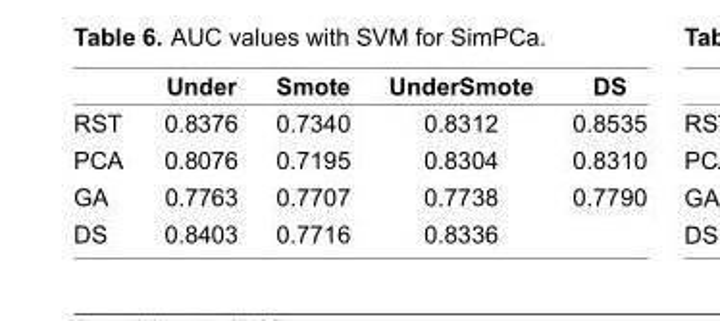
<table><thead><tr><td></td><td>Under</td><td>Smote</td><td>UnderSmote</td><td>DS</td></tr></thead><tbody><tr><td>RST</td><td>0.8376</td><td>0.7340</td><td>0.8312</td><td>0.8535</td></tr><tr><td>PCA</td><td>0.8076</td><td>0.7195</td><td>0.8304</td><td>0.8310</td></tr><tr><td>GA</td><td>0.7763</td><td>0.7707</td><td>0.7738</td><td>0.7790</td></tr><tr><td>DS</td><td>0.8403</td><td>0.7716</td><td>0.8336</td><td></td></tr></tbody></table>